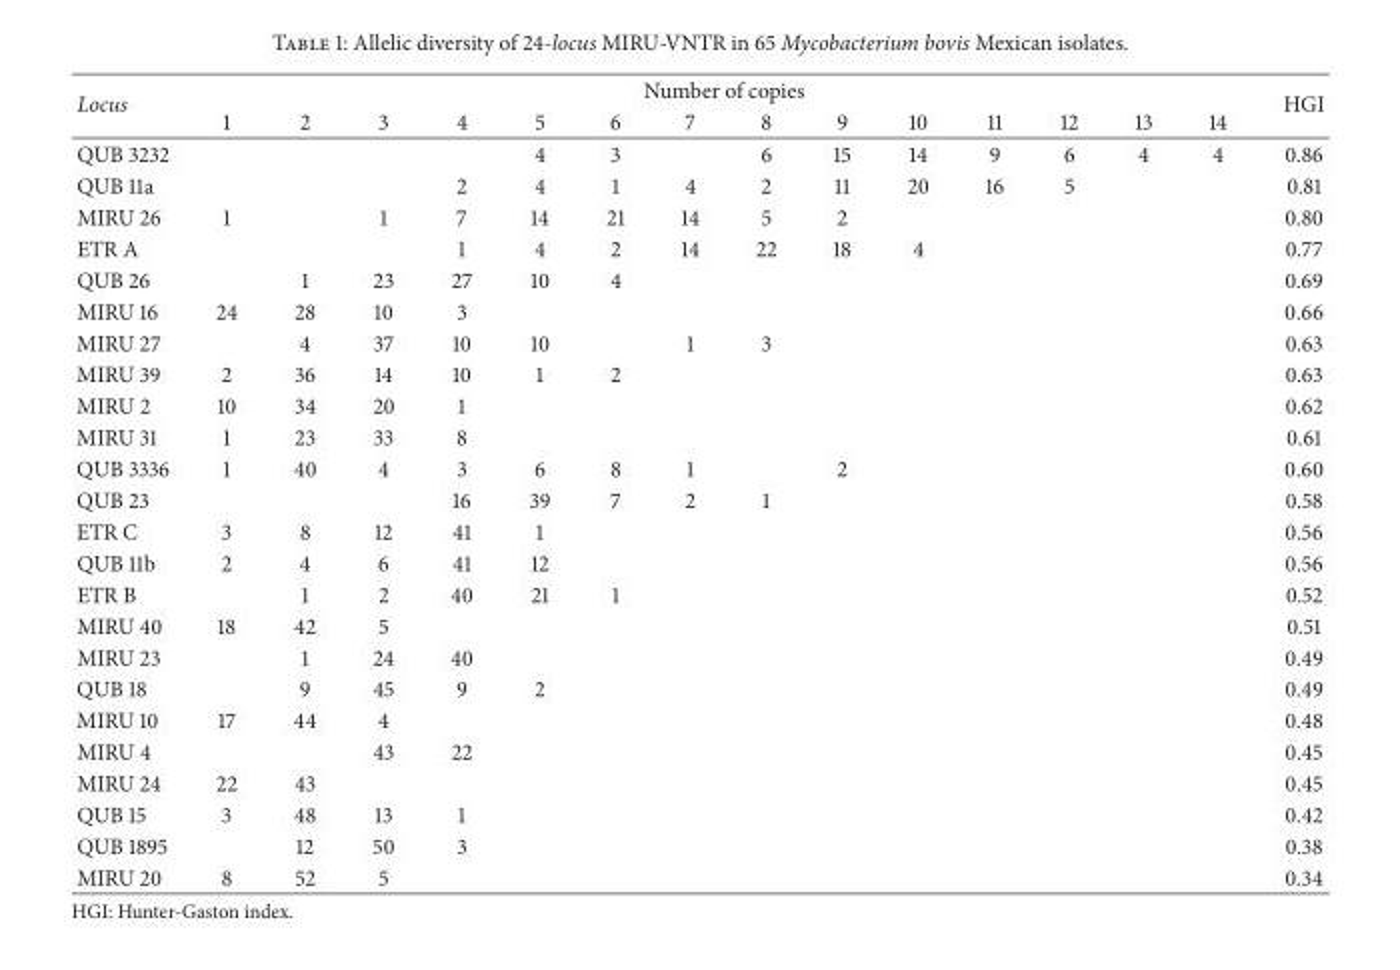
<table><thead><tr><td rowspan="2">Locus</td><td colspan="14">Number of copies</td><td rowspan="2">HGI</td></tr><tr><td>1</td><td>2</td><td>3</td><td>4</td><td>5</td><td>6</td><td>7</td><td>8</td><td>9</td><td>10</td><td>11</td><td>12</td><td>13</td><td>14</td></tr></thead><tbody><tr><td>QUB 3232</td><td></td><td></td><td></td><td></td><td>4</td><td>3</td><td></td><td>6</td><td>15</td><td>14</td><td>9</td><td>6</td><td>4</td><td>4</td><td>0.86</td></tr><tr><td>QUB 11a</td><td></td><td></td><td></td><td>2</td><td>4</td><td>1</td><td>4</td><td>2</td><td>11</td><td>20</td><td>16</td><td>5</td><td></td><td></td><td>0.81</td></tr><tr><td>MIRU 26</td><td>1</td><td></td><td>1</td><td>7</td><td>14</td><td>21</td><td>14</td><td>5</td><td>2</td><td></td><td></td><td></td><td></td><td></td><td>0.80</td></tr><tr><td>ETR A</td><td></td><td></td><td></td><td>1</td><td>4</td><td>2</td><td>14</td><td>22</td><td>18</td><td>4</td><td></td><td></td><td></td><td></td><td>0.77</td></tr><tr><td>QUB 26</td><td></td><td>1</td><td>23</td><td>27</td><td>10</td><td>4</td><td></td><td></td><td></td><td></td><td></td><td></td><td></td><td></td><td>0.69</td></tr><tr><td>MIRU 16</td><td>24</td><td>28</td><td>10</td><td>3</td><td></td><td></td><td></td><td></td><td></td><td></td><td></td><td></td><td></td><td></td><td>0.66</td></tr><tr><td>MIRU 27</td><td></td><td>4</td><td>37</td><td>10</td><td>10</td><td></td><td>1</td><td>3</td><td></td><td></td><td></td><td></td><td></td><td></td><td>0.63</td></tr><tr><td>MIRU 39</td><td>2</td><td>36</td><td>14</td><td>10</td><td>1</td><td>2</td><td></td><td></td><td></td><td></td><td></td><td></td><td></td><td></td><td>0.63</td></tr><tr><td>MIRU 2</td><td>10</td><td>34</td><td>20</td><td>1</td><td></td><td></td><td></td><td></td><td></td><td></td><td></td><td></td><td></td><td></td><td>0.62</td></tr><tr><td>MIRU 31</td><td>1</td><td>23</td><td>33</td><td>8</td><td></td><td></td><td></td><td></td><td></td><td></td><td></td><td></td><td></td><td></td><td>0.61</td></tr><tr><td>QUB 3336</td><td>1</td><td>40</td><td>4</td><td>3</td><td>6</td><td>8</td><td>1</td><td></td><td>2</td><td></td><td></td><td></td><td></td><td></td><td>0.60</td></tr><tr><td>QUB 23</td><td></td><td></td><td></td><td>16</td><td>39</td><td>7</td><td>2</td><td>1</td><td></td><td></td><td></td><td></td><td></td><td></td><td>0.58</td></tr><tr><td>ETR C</td><td>3</td><td>8</td><td>12</td><td>41</td><td>1</td><td></td><td></td><td></td><td></td><td></td><td></td><td></td><td></td><td></td><td>0.56</td></tr><tr><td>QUB 11b</td><td>2</td><td>4</td><td>6</td><td>41</td><td>12</td><td></td><td></td><td></td><td></td><td></td><td></td><td></td><td></td><td></td><td>0.56</td></tr><tr><td>ETR B</td><td></td><td>1</td><td>2</td><td>40</td><td>21</td><td>1</td><td></td><td></td><td></td><td></td><td></td><td></td><td></td><td></td><td>0.52</td></tr><tr><td>MIRU 40</td><td>18</td><td>42</td><td>5</td><td></td><td></td><td></td><td></td><td></td><td></td><td></td><td></td><td></td><td></td><td></td><td>0.51</td></tr><tr><td>MIRU 23</td><td></td><td>1</td><td>24</td><td>40</td><td></td><td></td><td></td><td></td><td></td><td></td><td></td><td></td><td></td><td></td><td>0.49</td></tr><tr><td>QUB 18</td><td></td><td>9</td><td>45</td><td>9</td><td>2</td><td></td><td></td><td></td><td></td><td></td><td></td><td></td><td></td><td></td><td>0.49</td></tr><tr><td>MIRU 10</td><td>17</td><td>44</td><td>4</td><td></td><td></td><td></td><td></td><td></td><td></td><td></td><td></td><td></td><td></td><td></td><td>0.48</td></tr><tr><td>MIRU 4</td><td></td><td></td><td>43</td><td>22</td><td></td><td></td><td></td><td></td><td></td><td></td><td></td><td></td><td></td><td></td><td>0.45</td></tr><tr><td>MIRU 24</td><td>22</td><td>43</td><td></td><td></td><td></td><td></td><td></td><td></td><td></td><td></td><td></td><td></td><td></td><td></td><td>0.45</td></tr><tr><td>QUB 15</td><td>3</td><td>48</td><td>13</td><td>1</td><td></td><td></td><td></td><td></td><td></td><td></td><td></td><td></td><td></td><td></td><td>0.42</td></tr><tr><td>QUB 1895</td><td></td><td>12</td><td>50</td><td>3</td><td></td><td></td><td></td><td></td><td></td><td></td><td></td><td></td><td></td><td></td><td>0.38</td></tr><tr><td>MIRU 20</td><td>8</td><td>52</td><td>5</td><td></td><td></td><td></td><td></td><td></td><td></td><td></td><td></td><td></td><td></td><td></td><td>0.34</td></tr></tbody></table>